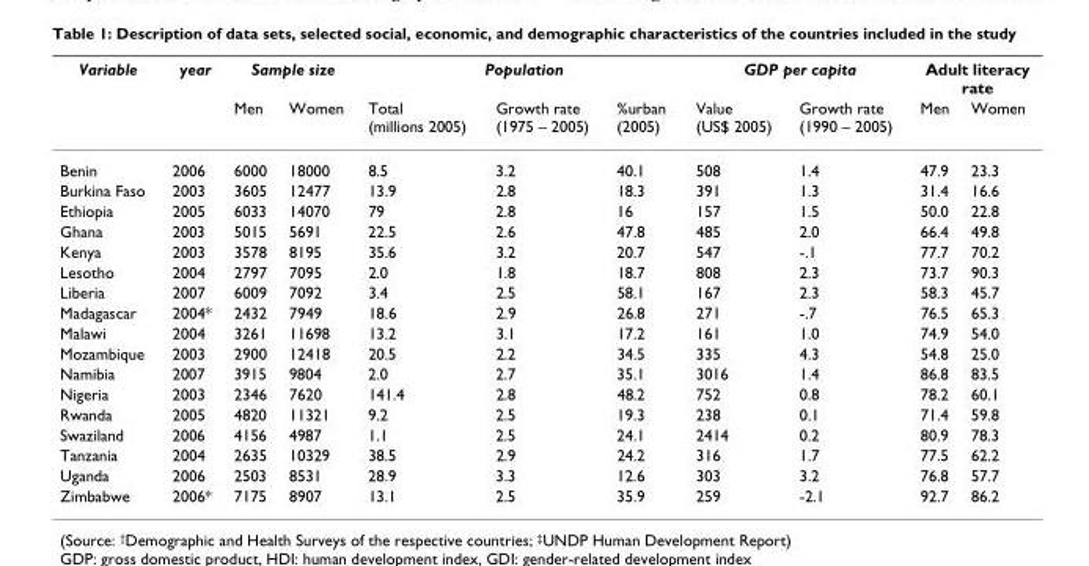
<table><thead><tr><td rowspan="2">Variable</td><td rowspan="2">year</td><td colspan="2">Sample size</td><td colspan="3">Population</td><td colspan="2">GDP per capita</td><td colspan="2">Adult literacy rate</td></tr><tr><td>Men</td><td>Women</td><td>Total (millions 2005)</td><td>Growth rate (1975 – 2005)</td><td>%urban (2005)</td><td>Value (US$ 2005)</td><td>Growth rate (1990 – 2005)</td><td>Men</td><td>Women</td></tr></thead><tbody><tr><td>Benin</td><td>2006</td><td>6000</td><td>18000</td><td>8.5</td><td>3.2</td><td>40.1</td><td>508</td><td>1.4</td><td>47.9</td><td>23.3</td></tr><tr><td>Burkina Faso</td><td>2003</td><td>3605</td><td>12477</td><td>13.9</td><td>2.8</td><td>18.3</td><td>391</td><td>1.3</td><td>31.4</td><td>16.6</td></tr><tr><td>Ethiopia</td><td>2005</td><td>6033</td><td>14070</td><td>79</td><td>2.8</td><td>16</td><td>157</td><td>1.5</td><td>50.0</td><td>22.8</td></tr><tr><td>Ghana</td><td>2003</td><td>5015</td><td>5691</td><td>22.5</td><td>2.6</td><td>47.8</td><td>485</td><td>2.0</td><td>66.4</td><td>49.8</td></tr><tr><td>Kenya</td><td>2003</td><td>3578</td><td>8195</td><td>35.6</td><td>3.2</td><td>20.7</td><td>547</td><td>-.1</td><td>77.7</td><td>70.2</td></tr><tr><td>Lesotho</td><td>2004</td><td>2797</td><td>7095</td><td>2.0</td><td>1.8</td><td>18.7</td><td>808</td><td>2.3</td><td>73.7</td><td>90.3</td></tr><tr><td>Liberia</td><td>2007</td><td>6009</td><td>7092</td><td>3.4</td><td>2.5</td><td>58.1</td><td>167</td><td>2.3</td><td>58.3</td><td>45.7</td></tr><tr><td>Madagascar</td><td>2004*</td><td>2432</td><td>7949</td><td>18.6</td><td>2.9</td><td>26.8</td><td>271</td><td>-.7</td><td>76.5</td><td>65.3</td></tr><tr><td>Malawi</td><td>2004</td><td>3261</td><td>11698</td><td>13.2</td><td>3.1</td><td>17.2</td><td>161</td><td>1.0</td><td>74.9</td><td>54.0</td></tr><tr><td>Mozambique</td><td>2003</td><td>2900</td><td>12418</td><td>20.5</td><td>2.2</td><td>34.5</td><td>335</td><td>4.3</td><td>54.8</td><td>25.0</td></tr><tr><td>Namibia</td><td>2007</td><td>3915</td><td>9804</td><td>2.0</td><td>2.7</td><td>35.1</td><td>3016</td><td>1.4</td><td>86.8</td><td>83.5</td></tr><tr><td>Nigeria</td><td>2003</td><td>2346</td><td>7620</td><td>141.4</td><td>2.8</td><td>48.2</td><td>752</td><td>0.8</td><td>78.2</td><td>60.1</td></tr><tr><td>Rwanda</td><td>2005</td><td>4820</td><td>11321</td><td>9.2</td><td>2.5</td><td>19.3</td><td>238</td><td>0.1</td><td>71.4</td><td>59.8</td></tr><tr><td>Swaziland</td><td>2006</td><td>4156</td><td>4987</td><td>1.1</td><td>2.5</td><td>24.1</td><td>2414</td><td>0.2</td><td>80.9</td><td>78.3</td></tr><tr><td>Tanzania</td><td>2004</td><td>2635</td><td>10329</td><td>38.5</td><td>2.9</td><td>24.2</td><td>316</td><td>1.7</td><td>77.5</td><td>62.2</td></tr><tr><td>Uganda</td><td>2006</td><td>2503</td><td>8531</td><td>28.9</td><td>3.3</td><td>12.6</td><td>303</td><td>3.2</td><td>76.8</td><td>57.7</td></tr><tr><td>Zimbabwe</td><td>2006*</td><td>7175</td><td>8907</td><td>13.1</td><td>2.5</td><td>35.9</td><td>259</td><td>-2.1</td><td>92.7</td><td>86.2</td></tr></tbody></table>